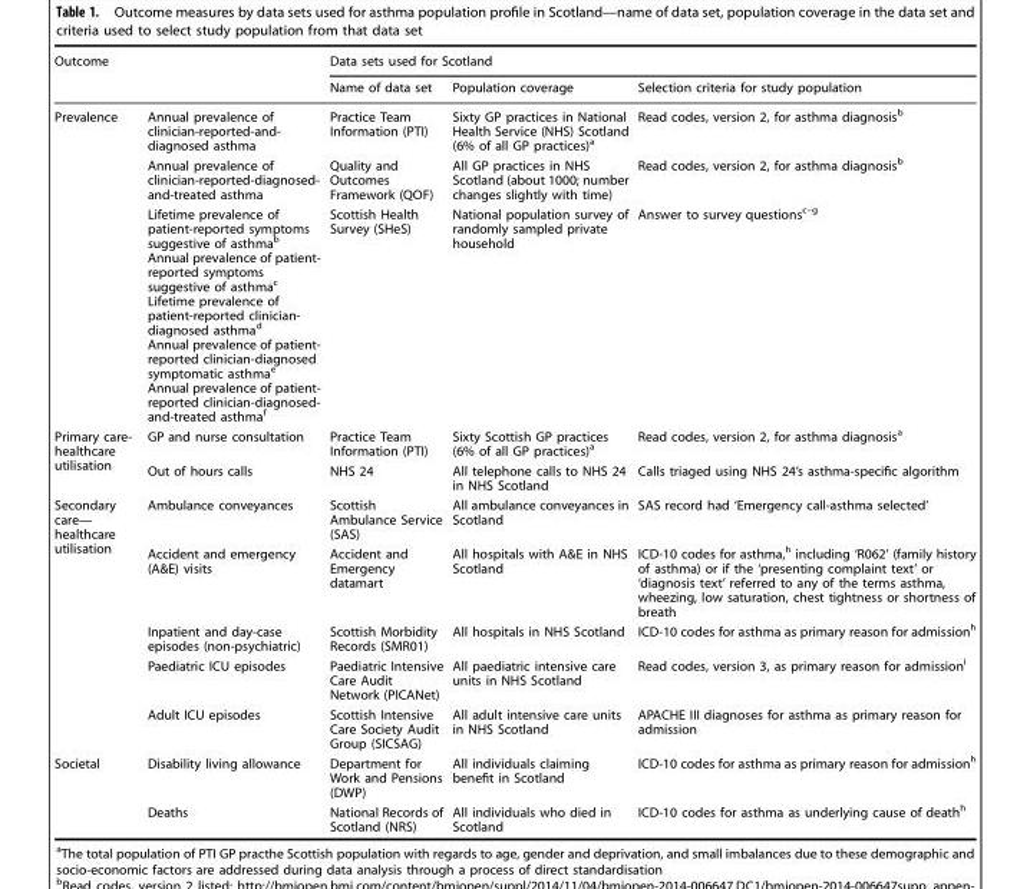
<table><thead><tr><td rowspan="2">Outcome</td><td rowspan="2"></td><td colspan="3">Data sets used for Scotland</td></tr><tr><td>Name of data set</td><td>Population coverage</td><td>Selection criteria for study population</td></tr></thead><tbody><tr><td rowspan="3">Prevalence</td><td>Annual prevalence of clinician-reported-and- diagnosed asthma</td><td>Practice Team Information (PTI)</td><td>Sixty GP practices in National Health Service (NHS) Scotland (6% of all GP practices)<sup>a</sup></td><td>Read codes, version 2, for asthma diagnosis<sup>b</sup></td></tr><tr><td>Annual prevalence of clinician-reported-diagnosed- and-treated asthma</td><td>Quality and Outcomes Framework (QOF)</td><td>All GP practices in NHS Scotland (about 1000; number changes slightly with time)</td><td>Read codes, version 2, for asthma diagnosis<sup>b</sup></td></tr><tr><td>Lifetime prevalence of patient-reported symptoms suggestive of asthma<sup>b</sup> Annual prevalence of patient- reported symptoms suggestive of asthma<sup>c</sup> Lifetime prevalence of patient-reported clinician- diagnosed asthma<sup>d</sup> Annual prevalence of patient- reported clinician-diagnosed symptomatic asthma<sup>e</sup> Annual prevalence of patient- reported clinician-diagnosed- and-treated asthma<sup>f</sup></td><td>Scottish Health Survey (SHeS)</td><td>National population survey of randomly sampled private household</td><td>Answer to survey questions<sup>c–g</sup></td></tr><tr><td rowspan="2">Primary care- healthcare utilisation</td><td>GP and nurse consultation</td><td>Practice Team Information (PTI)</td><td>Sixty Scottish GP practices (6% of all GP practices)<sup>a</sup></td><td>Read codes, version 2, for asthma diagnosis<sup>a</sup></td></tr><tr><td>Out of hours calls</td><td>NHS 24</td><td>All telephone calls to NHS 24 in NHS Scotland</td><td>Calls triaged using NHS 24’s asthma-specific algorithm</td></tr><tr><td rowspan="5">Secondary care— healthcare utilisation</td><td>Ambulance conveyances</td><td>Scottish Ambulance Service (SAS)</td><td>All ambulance conveyances in Scotland</td><td>SAS record had ‘Emergency call-asthma selected’</td></tr><tr><td>Accident and emergency (A&amp;E) visits</td><td>Accident and Emergency datamart</td><td>All hospitals with A&amp;E in NHS Scotland</td><td>ICD-10 codes for asthma,<sup>h</sup> including ‘R062’ (family history of asthma) or if the ‘presenting complaint text’ or ‘diagnosis text’ referred to any of the terms asthma, wheezing, low saturation, chest tightness or shortness of breath</td></tr><tr><td>Inpatient and day-case episodes (non-psychiatric)</td><td>Scottish Morbidity Records (SMR01)</td><td>All hospitals in NHS Scotland</td><td>ICD-10 codes for asthma as primary reason for admission<sup>h</sup></td></tr><tr><td>Paediatric ICU episodes</td><td>Paediatric Intensive Care Audit Network (PICANet)</td><td>All paediatric intensive care units in NHS Scotland</td><td>Read codes, version 3, as primary reason for admission<sup>i</sup></td></tr><tr><td>Adult ICU episodes</td><td>Scottish Intensive Care Society Audit Group (SICSAG)</td><td>All adult intensive care units in NHS Scotland</td><td>APACHE III diagnoses for asthma as primary reason for admission</td></tr><tr><td rowspan="2">Societal</td><td>Disability living allowance</td><td>Department for Work and Pensions (DWP)</td><td>All individuals claiming benefit in Scotland</td><td>ICD-10 codes for asthma as primary reason for admission<sup>h</sup></td></tr><tr><td>Deaths</td><td>National Records of Scotland (NRS)</td><td>All individuals who died in Scotland</td><td>ICD-10 codes for asthma as underlying cause of death<sup>h</sup></td></tr></tbody></table>